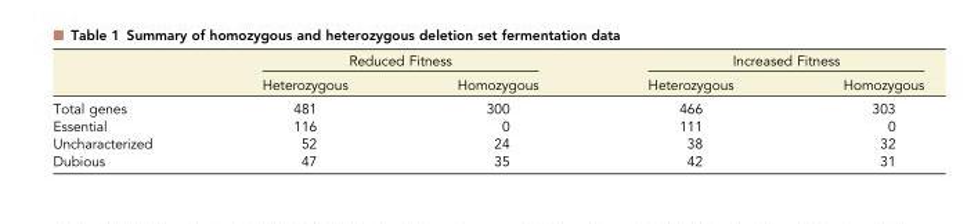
<table><thead><tr><td rowspan="2"></td><td colspan="2">Reduced Fitness</td><td colspan="2">Increased Fitness</td></tr><tr><td>Heterozygous</td><td>Homozygous</td><td>Heterozygous</td><td>Homozygous</td></tr></thead><tbody><tr><td>Total genes</td><td>481</td><td>300</td><td>466</td><td>303</td></tr><tr><td>Essential</td><td>116</td><td>0</td><td>111</td><td>0</td></tr><tr><td>Uncharacterized</td><td>52</td><td>24</td><td>38</td><td>32</td></tr><tr><td>Dubious</td><td>47</td><td>35</td><td>42</td><td>31</td></tr></tbody></table>